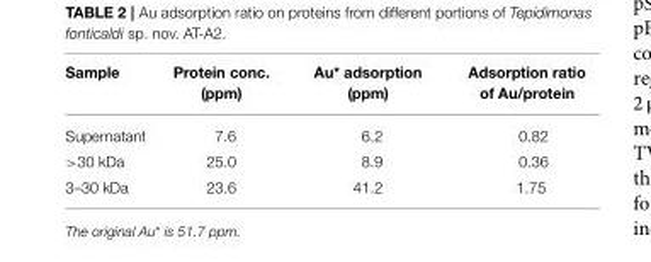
<table><thead><tr><td>Sample</td><td>Protein conc. (ppm)</td><td>Au* adsorption (ppm)</td><td>Adsorption ratio of Au/protein</td></tr></thead><tbody><tr><td>Supernatant</td><td>7.6</td><td>6.2</td><td>0.82</td></tr><tr><td>&gt;30 kDa</td><td>25.0</td><td>8.9</td><td>0.36</td></tr><tr><td>3–30 kDa</td><td>23.6</td><td>41.2</td><td>1.75</td></tr></tbody></table>